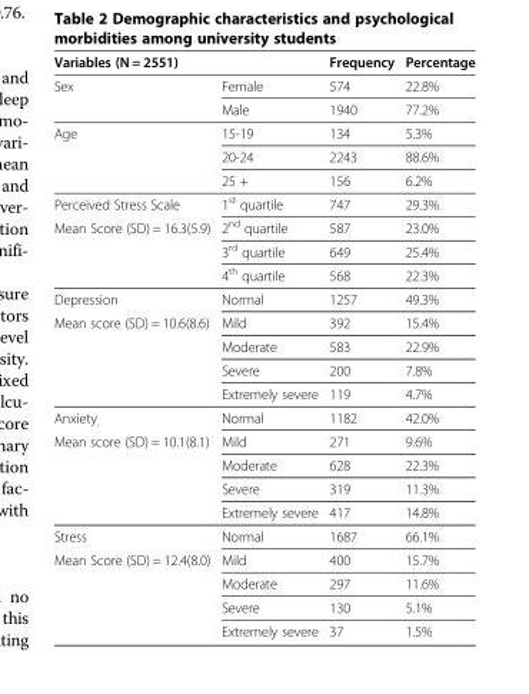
<table><thead><tr><td>Variables (N = 2551)</td><td></td><td>Frequency</td><td>Percentage</td></tr></thead><tbody><tr><td rowspan="2">Sex</td><td>Female</td><td>574</td><td>22.8%</td></tr><tr><td>Male</td><td>1940</td><td>77.2%</td></tr><tr><td rowspan="3">Age</td><td>15-19</td><td>134</td><td>5.3%</td></tr><tr><td>20-24</td><td>2243</td><td>88.6%</td></tr><tr><td>25 +</td><td>156</td><td>6.2%</td></tr><tr><td>Perceived Stress Scale</td><td>1<sup>st</sup> quartile</td><td>747</td><td>29.3%</td></tr><tr><td rowspan="3">Mean Score (SD) = 16.3(5.9)</td><td>2<sup>nd</sup> quartile</td><td>587</td><td>23.0%</td></tr><tr><td>3<sup>rd</sup> quartile</td><td>649</td><td>25.4%</td></tr><tr><td>4<sup>th</sup> quartile</td><td>568</td><td>22.3%</td></tr><tr><td>Depression</td><td>Normal</td><td>1257</td><td>49.3%</td></tr><tr><td rowspan="4">Mean score (SD) = 10.6(8.6)</td><td>Mild</td><td>392</td><td>15.4%</td></tr><tr><td>Moderate</td><td>583</td><td>22.9%</td></tr><tr><td>Severe</td><td>200</td><td>7.8%</td></tr><tr><td>Extremely severe</td><td>119</td><td>4.7%</td></tr><tr><td>Anxiety</td><td>Normal</td><td>1182</td><td>42.0%</td></tr><tr><td rowspan="4">Mean score (SD) = 10.1(8.1)</td><td>Mild</td><td>271</td><td>9.6%</td></tr><tr><td>Moderate</td><td>628</td><td>22.3%</td></tr><tr><td>Severe</td><td>319</td><td>11.3%</td></tr><tr><td>Extremely severe</td><td>417</td><td>14.8%</td></tr><tr><td>Stress</td><td>Normal</td><td>1687</td><td>66.1%</td></tr><tr><td rowspan="4">Mean Score (SD) = 12.4(8.0)</td><td>Mild</td><td>400</td><td>15.7%</td></tr><tr><td>Moderate</td><td>297</td><td>11.6%</td></tr><tr><td>Severe</td><td>130</td><td>5.1%</td></tr><tr><td>Extremely severe</td><td>37</td><td>1.5%</td></tr></tbody></table>